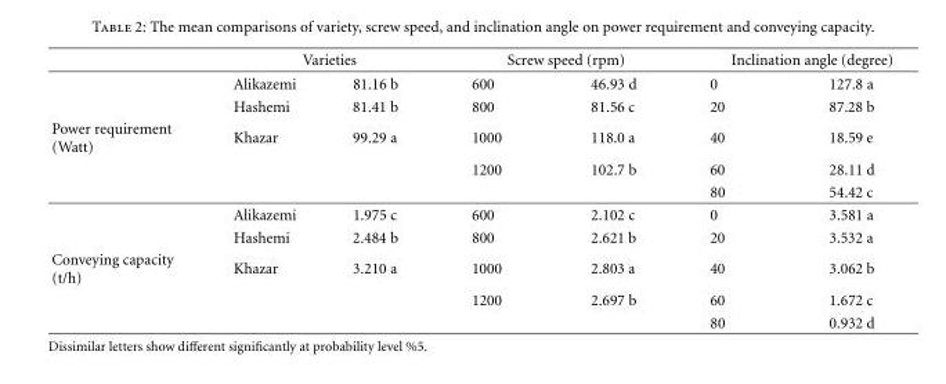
<table><thead><tr><td rowspan="2"></td><td colspan="2">Varieties</td><td colspan="2">Screw speed (rpm)</td><td colspan="2">Inclination angle (degree)</td></tr><tr><td>Alikazemi</td><td>81.16 b</td><td>600</td><td>46.93 d</td><td>0</td><td>127.8 a</td></tr></thead><tbody><tr><td></td><td>Hashemi</td><td>81.41 b</td><td>800</td><td>81.56 c</td><td>20</td><td>87.28 b</td></tr><tr><td rowspan="5">Power requirement (Watt)</td><td>Khazar</td><td>99.29 a</td><td>1000</td><td>118.0 a</td><td>40</td><td>18.59 e</td></tr><tr><td></td><td></td><td>1200</td><td>102.7 b</td><td>60</td><td>28.11 d</td></tr><tr><td></td><td></td><td></td><td></td><td>80</td><td>54.42 c</td></tr><tr><td>Alikazemi</td><td>1.975 c</td><td>600</td><td>2.102 c</td><td>0</td><td>3.581 a</td></tr><tr><td>Hashemi</td><td>2.484 b</td><td>800</td><td>2.621 b</td><td>20</td><td>3.532 a</td></tr><tr><td rowspan="3">Conveying capacity (t/h)</td><td>Khazar</td><td>3.210 a</td><td>1000</td><td>2.803 a</td><td>40</td><td>3.062 b</td></tr><tr><td></td><td></td><td>1200</td><td>2.697 b</td><td>60</td><td>1.672 c</td></tr><tr><td></td><td></td><td></td><td></td><td>80</td><td>0.932 d</td></tr></tbody></table>